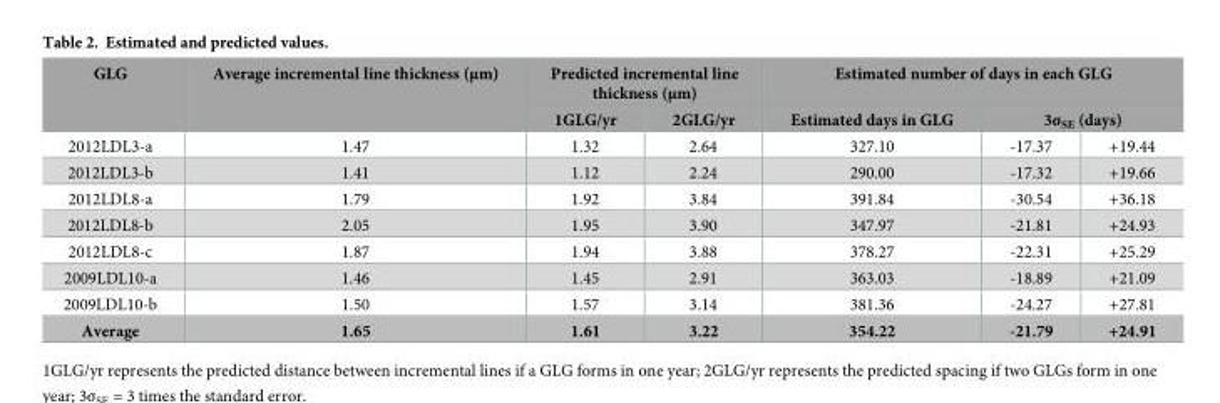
<table><thead><tr><td rowspan="3">GLG 2012LDL3-a</td><td rowspan="3">Average incremental line thickness (μm) 1.47</td><td colspan="2">Predicted incremental line thickness (μm)</td><td colspan="3">Estimated number of days in each GLG</td></tr><tr><td rowspan="2">1GLG/yr 1.32</td><td rowspan="2">2GLG/yr 2.64</td><td rowspan="2">Estimated days in GLG 327.10</td><td colspan="2">3σ<sub>SE</sub> (days)</td></tr><tr><td>-17.37</td><td>+19.44</td></tr></thead><tbody><tr><td>2012LDL3-b</td><td>1.41</td><td>1.12</td><td>2.24</td><td>290.00</td><td>-17.32</td><td>+19.66</td></tr><tr><td>2012LDL8-a</td><td>1.79</td><td>1.92</td><td>3.84</td><td>391.84</td><td>-30.54</td><td>+36.18</td></tr><tr><td>2012LDL8-b</td><td>2.05</td><td>1.95</td><td>3.90</td><td>347.97</td><td>-21.81</td><td>+24.93</td></tr><tr><td>2012LDL8-c</td><td>1.87</td><td>1.94</td><td>3.88</td><td>378.27</td><td>-22.31</td><td>+25.29</td></tr><tr><td>2009LDL10-a</td><td>1.46</td><td>1.45</td><td>2.91</td><td>363.03</td><td>-18.89</td><td>+21.09</td></tr><tr><td>2009LDL10-b</td><td>1.50</td><td>1.57</td><td>3.14</td><td>381.36</td><td>-24.27</td><td>+27.81</td></tr><tr><td>Average</td><td>1.65</td><td>1.61</td><td>3.22</td><td>354.22</td><td>-21.79</td><td>+24.91</td></tr></tbody></table>